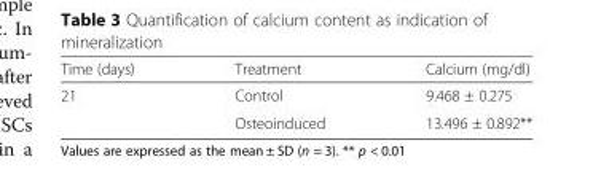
<table><thead><tr><td>Time (days)</td><td>Treatment</td><td>Calcium (mg/dl)</td></tr></thead><tbody><tr><td rowspan="2">21</td><td>Control</td><td>9.468 ± 0.275</td></tr><tr><td>Osteoinduced</td><td>13.496 ± 0.892**</td></tr></tbody></table>